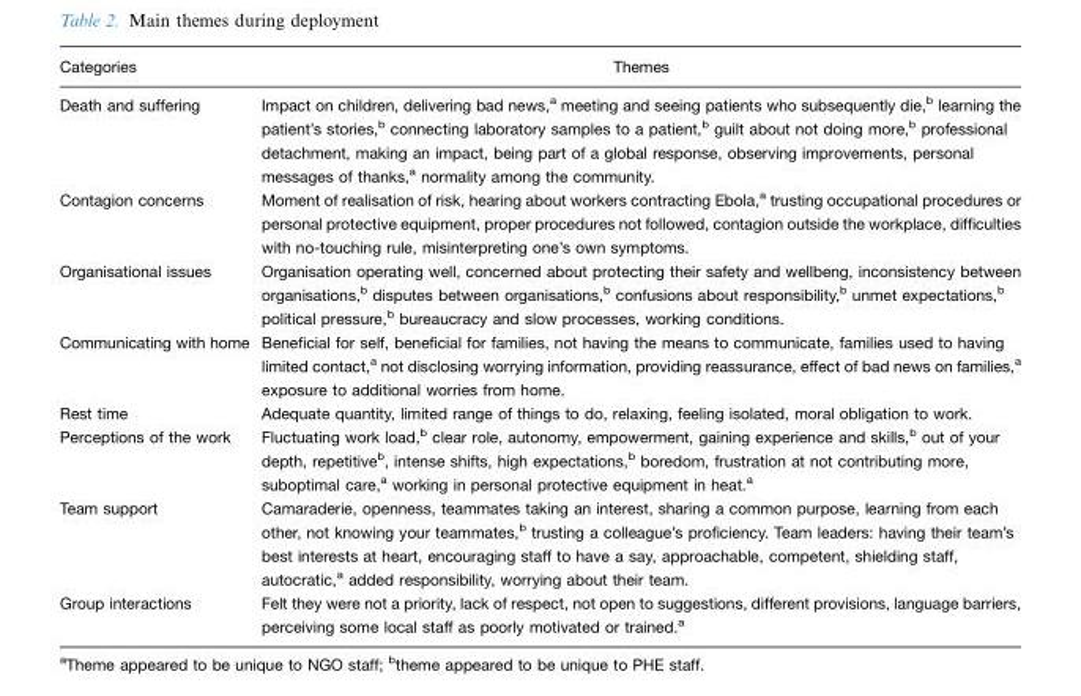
<table><thead><tr><td>Categories</td><td>Themes</td></tr></thead><tbody><tr><td>Death and suffering</td><td>Impact on children, delivering bad news,<sup>a</sup> meeting and seeing patients who subsequently die,<sup>b</sup> learning the patient’s stories,<sup>b</sup> connecting laboratory samples to a patient,<sup>b</sup> guilt about not doing more,<sup>b</sup> professional detachment, making an impact, being part of a global response, observing improvements, personal messages of thanks,<sup>a</sup> normality among the community.</td></tr><tr><td>Contagion concerns</td><td>Moment of realisation of risk, hearing about workers contracting Ebola,<sup>a</sup> trusting occupational procedures or personal protective equipment, proper procedures not followed, contagion outside the workplace, difficulties with no-touching rule, misinterpreting one’s own symptoms.</td></tr><tr><td>Organisational issues</td><td>Organisation operating well, concerned about protecting their safety and wellbeng, inconsistency between organisations,<sup>b</sup> disputes between organisations,<sup>b</sup> confusions about responsibility,<sup>b</sup> unmet expectations,<sup>b</sup> political pressure,<sup>b</sup> bureaucracy and slow processes, working conditions.</td></tr><tr><td>Communicating with home</td><td>Beneficial for self, beneficial for families, not having the means to communicate, families used to having limited contact,<sup>a</sup> not disclosing worrying information, providing reassurance, effect of bad news on families,<sup>a</sup> exposure to additional worries from home.</td></tr><tr><td>Rest time</td><td>Adequate quantity, limited range of things to do, relaxing, feeling isolated, moral obligation to work.</td></tr><tr><td>Perceptions of the work</td><td>Fluctuating work load,<sup>b</sup> clear role, autonomy, empowerment, gaining experience and skills,<sup>b</sup> out of your depth, repetitive<sup>b</sup>, intense shifts, high expectations,<sup>b</sup> boredom, frustration at not contributing more, suboptimal care,<sup>a</sup> working in personal protective equipment in heat.<sup>a</sup></td></tr><tr><td>Team support</td><td>Camaraderie, openness, teammates taking an interest, sharing a common purpose, learning from each other, not knowing your teammates,<sup>b</sup> trusting a colleague’s proficiency. Team leaders: having their team’s best interests at heart, encouraging staff to have a say, approachable, competent, shielding staff, autocratic,<sup>a</sup> added responsibility, worrying about their team.</td></tr><tr><td>Group interactions</td><td>Felt they were not a priority, lack of respect, not open to suggestions, different provisions, language barriers, perceiving some local staff as poorly motivated or trained.<sup>a</sup></td></tr></tbody></table>